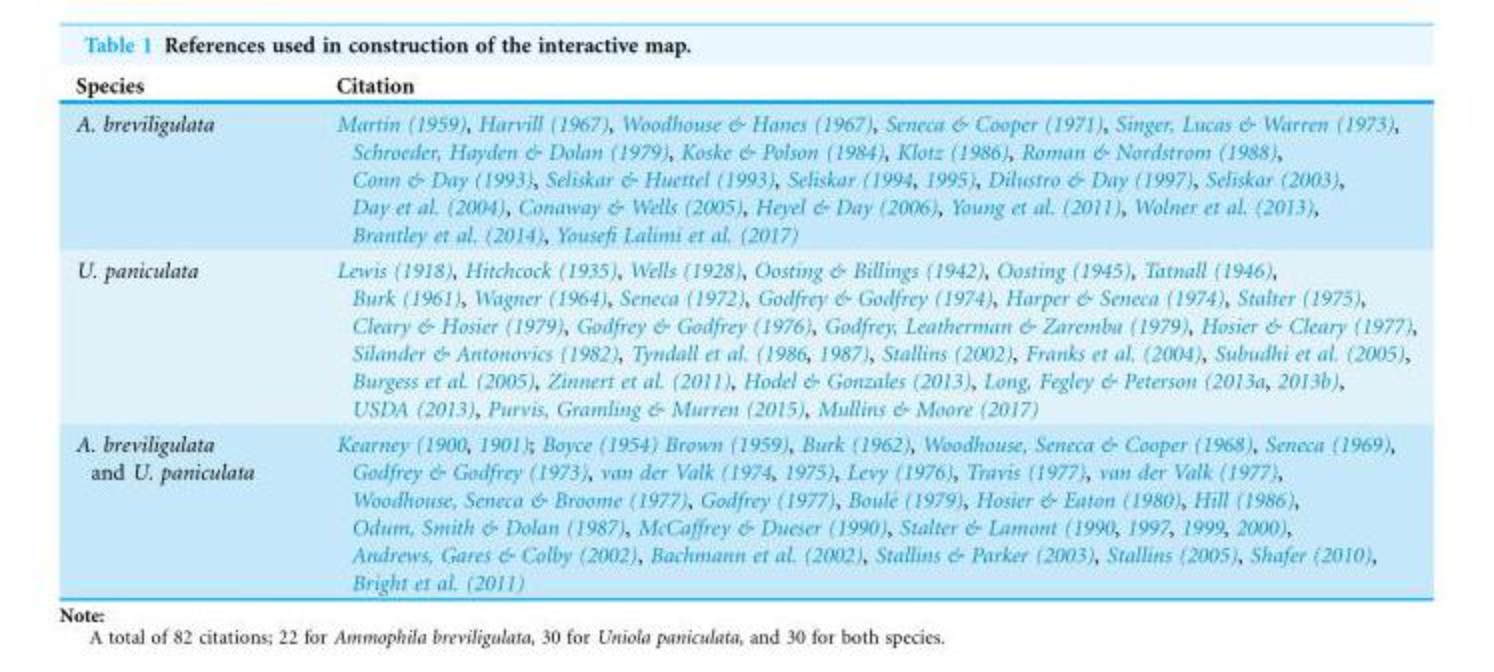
<table><thead><tr><td>Species</td><td>Citation</td></tr></thead><tbody><tr><td>A. breviligulata</td><td>Martin (1959), Harvill (1967), Woodhouse &amp; Hanes (1967), Seneca &amp; Cooper (1971), Singer, Lucas &amp; Warren (1973), Schroeder, Hayden &amp; Dolan (1979), Koske &amp; Polson (1984), Klotz (1986), Roman &amp; Nordstrom (1988), Conn &amp; Day (1993), Seliskar &amp; Huettel (1993), Seliskar (1994, 1995), Dilustro &amp; Day (1997), Seliskar (2003), Day et al. (2004), Conaway &amp; Wells (2005), Heyel &amp; Day (2006), Young et al. (2011), Wolner et al. (2013), Brantley et al. (2014), Yousefi Lalimi et al. (2017)</td></tr><tr><td>U. paniculata</td><td>Lewis (1918), Hitchcock (1935), Wells (1928), Oosting &amp; Billings (1942), Oosting (1945), Tatnall (1946), Burk (1961), Wagner (1964), Seneca (1972), Godfrey &amp; Godfrey (1974), Harper &amp; Seneca (1974), Stalter (1975), Cleary &amp; Hosier (1979), Godfrey &amp; Godfrey (1976), Godfrey, Leatherman &amp; Zaremba (1979), Hosier &amp; Cleary (1977), Silander &amp; Antonovics (1982), Tyndall et al. (1986, 1987), Stallins (2002), Franks et al. (2004), Subudhi et al. (2005), Burgess et al. (2005), Zinnert et al. (2011), Hodel &amp; Gonzales (2013), Long, Fegley &amp; Peterson (2013a, 2013b), USDA (2013), Purvis, Gramling &amp; Murren (2015), Mullins &amp; Moore (2017)</td></tr><tr><td>A. breviligulata and U. paniculata</td><td>Kearney (1900, 1901); Boyce (1954) Brown (1959), Burk (1962), Woodhouse, Seneca &amp; Cooper (1968), Seneca (1969), Godfrey &amp; Godfrey (1973), van der Valk (1974, 1975), Levy (1976), Travis (1977), van der Valk (1977), Woodhouse, Seneca &amp; Broome (1977), Godfrey (1977), Boule´ (1979), Hosier &amp; Eaton (1980), Hill (1986), Odum, Smith &amp; Dolan (1987), McCaffrey &amp; Dueser (1990), Stalter &amp; Lamont (1990, 1997, 1999, 2000), Andrews, Gares &amp; Colby (2002), Bachmann et al. (2002), Stallins &amp; Parker (2003), Stallins (2005), Shafer (2010), Bright et al. (2011)</td></tr></tbody></table>